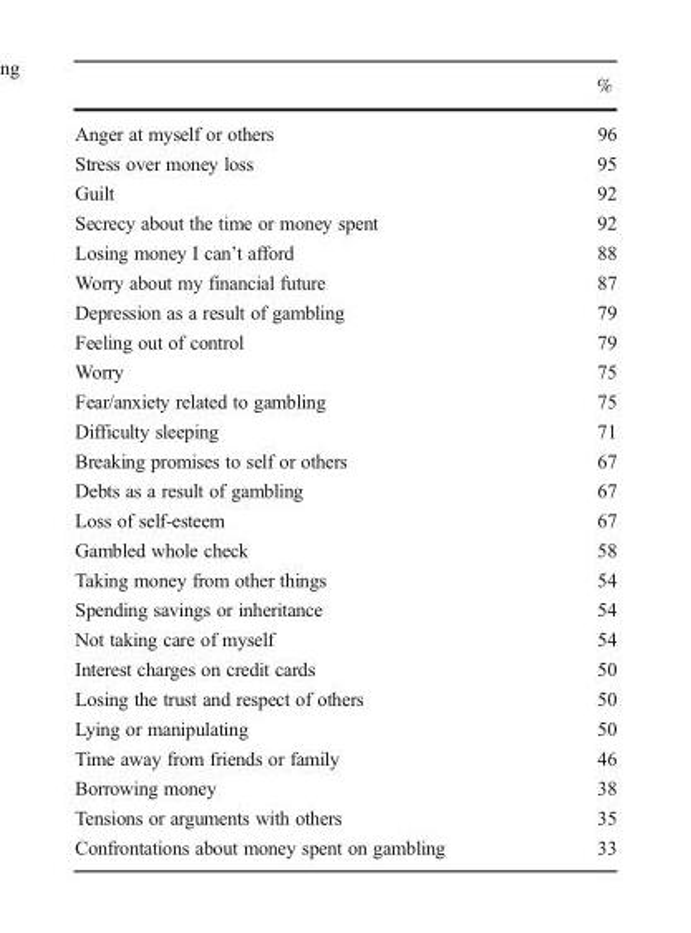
<table><thead><tr><td></td><td>%</td></tr></thead><tbody><tr><td>Anger at myself or others</td><td>96</td></tr><tr><td>Stress over money loss</td><td>95</td></tr><tr><td>Guilt</td><td>92</td></tr><tr><td>Secrecy about the time or money spent</td><td>92</td></tr><tr><td>Losing money I can’t afford</td><td>88</td></tr><tr><td>Worry about my financial future</td><td>87</td></tr><tr><td>Depression as a result of gambling</td><td>79</td></tr><tr><td>Feeling out of control</td><td>79</td></tr><tr><td>Worry</td><td>75</td></tr><tr><td>Fear/anxiety related to gambling</td><td>75</td></tr><tr><td>Difficulty sleeping</td><td>71</td></tr><tr><td>Breaking promises to self or others</td><td>67</td></tr><tr><td>Debts as a result of gambling</td><td>67</td></tr><tr><td>Loss of self-esteem</td><td>67</td></tr><tr><td>Gambled whole check</td><td>58</td></tr><tr><td>Taking money from other things</td><td>54</td></tr><tr><td>Spending savings or inheritance</td><td>54</td></tr><tr><td>Not taking care of myself</td><td>54</td></tr><tr><td>Interest charges on credit cards</td><td>50</td></tr><tr><td>Losing the trust and respect of others</td><td>50</td></tr><tr><td>Lying or manipulating</td><td>50</td></tr><tr><td>Time away from friends or family</td><td>46</td></tr><tr><td>Borrowing money</td><td>38</td></tr><tr><td>Tensions or arguments with others</td><td>35</td></tr><tr><td>Confrontations about money spent on gambling</td><td>33</td></tr></tbody></table>